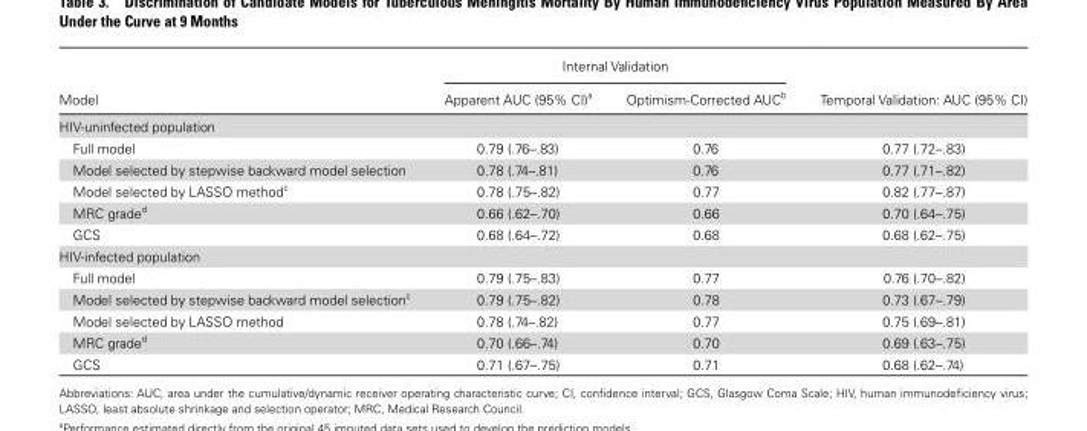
<table><thead><tr><td rowspan="2">Model</td><td colspan="2">Internal Validation</td><td rowspan="2">Temporal Validation: AUC (95% CI)</td></tr><tr><td>Apparent AUC (95% CI)<sup>a</sup></td><td>Optimism-Corrected AUC<sup>b</sup></td></tr></thead><tbody><tr><td colspan="4">HIV-uninfected population</td></tr><tr><td>Full model</td><td>0.79 (.76–.83)</td><td>0.76</td><td>0.77 (.72–.83)</td></tr><tr><td>Model selected by stepwise backward model selection</td><td>0.78 (.74–.81)</td><td>0.76</td><td>0.77 (.71–.82)</td></tr><tr><td>Model selected by LASSO method<sup>c</sup></td><td>0.78 (.75–.82)</td><td>0.77</td><td>0.82 (.77–.87)</td></tr><tr><td>MRC grade<sup>d</sup></td><td>0.66 (.62–.70)</td><td>0.66</td><td>0.70 (.64–.75)</td></tr><tr><td>GCS</td><td>0.68 (.64–.72)</td><td>0.68</td><td>0.68 (.62–.75)</td></tr><tr><td colspan="4">HIV-infected population</td></tr><tr><td>Full model</td><td>0.79 (.75–.83)</td><td>0.77</td><td>0.76 (.70–.82)</td></tr><tr><td>Model selected by stepwise backward model selection<sup>c</sup></td><td>0.79 (.75–.82)</td><td>0.78</td><td>0.73 (.67–.79)</td></tr><tr><td>Model selected by LASSO method</td><td>0.78 (.74–.82)</td><td>0.77</td><td>0.75 (.69–.81)</td></tr><tr><td>MRC grade<sup>d</sup></td><td>0.70 (.66–.74)</td><td>0.70</td><td>0.69 (.63–.75)</td></tr><tr><td>GCS</td><td>0.71 (.67–.75)</td><td>0.71</td><td>0.68 (.62–.74)</td></tr></tbody></table>